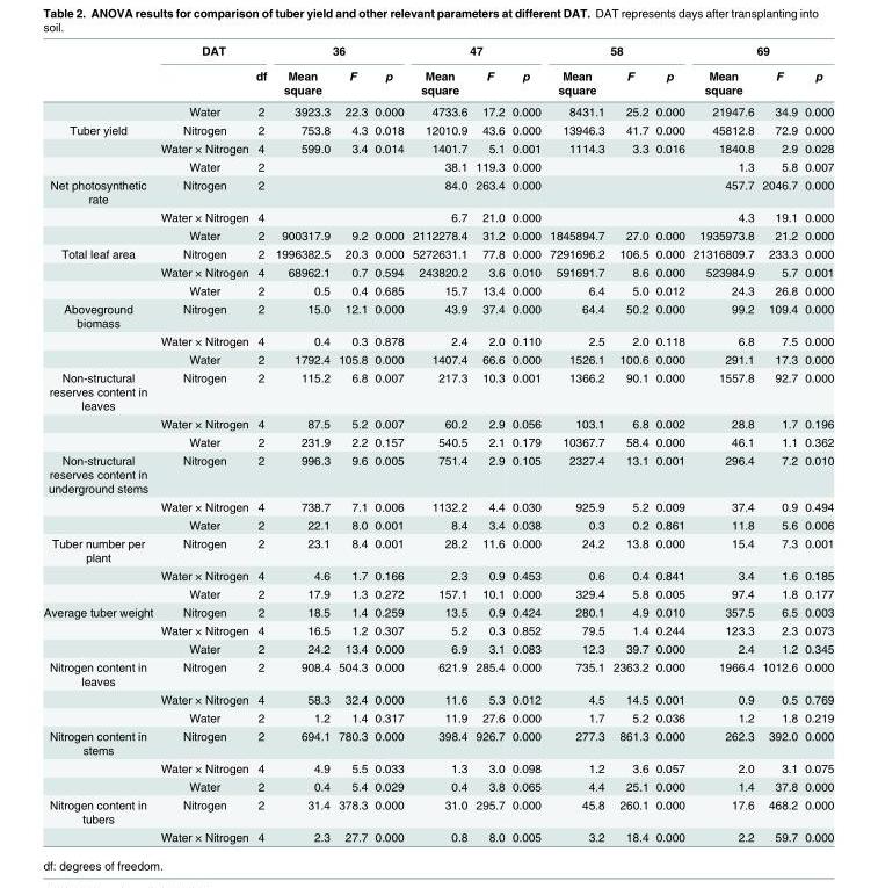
<table><thead><tr><td rowspan="2"></td><td colspan="2">DAT</td><td colspan="3">36</td><td colspan="3">47</td><td colspan="3">58</td><td colspan="3">69</td></tr><tr><td></td><td>df</td><td>Mean square</td><td>F</td><td>p</td><td>Mean square</td><td>F</td><td>p</td><td>Mean square</td><td>F</td><td>p</td><td>Mean square</td><td>F</td><td>p</td></tr></thead><tbody><tr><td></td><td>Water</td><td>2</td><td>3923.3</td><td>22.3</td><td>0.000</td><td>4733.6</td><td>17.2</td><td>0.000</td><td>8431.1</td><td>25.2</td><td>0.000</td><td>21947.6</td><td>34.9</td><td>0.000</td></tr><tr><td rowspan="3">Tuber yield</td><td>Nitrogen</td><td>2</td><td>753.8</td><td>4.3</td><td>0.018</td><td>12010.9</td><td>43.6</td><td>0.000</td><td>13946.3</td><td>41.7</td><td>0.000</td><td>45812.8</td><td>72.9</td><td>0.000</td></tr><tr><td>Water × Nitrogen</td><td>4</td><td>599.0</td><td>3.4</td><td>0.014</td><td>1401.7</td><td>5.1</td><td>0.001</td><td>1114.3</td><td>3.3</td><td>0.016</td><td>1840.8</td><td>2.9</td><td>0.028</td></tr><tr><td>Water</td><td>2</td><td></td><td></td><td></td><td>38.1</td><td>119.3</td><td>0.000</td><td></td><td></td><td></td><td>1.3</td><td>5.8</td><td>0.007</td></tr><tr><td rowspan="3">Net photosynthetic rate</td><td>Nitrogen</td><td>2</td><td></td><td></td><td></td><td>84.0</td><td>263.4</td><td>0.000</td><td></td><td></td><td></td><td>457.7</td><td>2046.7</td><td>0.000</td></tr><tr><td>Water × Nitrogen</td><td>4</td><td></td><td></td><td></td><td>6.7</td><td>21.0</td><td>0.000</td><td></td><td></td><td></td><td>4.3</td><td>19.1</td><td>0.000</td></tr><tr><td>Water</td><td>2</td><td>900317.9</td><td>9.2</td><td>0.000</td><td>2112278.4</td><td>31.2</td><td>0.000</td><td>1845894.7</td><td>27.0</td><td>0.000</td><td>1935973.8</td><td>21.2</td><td>0.000</td></tr><tr><td rowspan="3">Total leaf area</td><td>Nitrogen</td><td>2</td><td>1996382.5</td><td>20.3</td><td>0.000</td><td>5272631.1</td><td>77.8</td><td>0.000</td><td>7291696.2</td><td>106.5</td><td>0.000</td><td>21316809.7</td><td>233.3</td><td>0.000</td></tr><tr><td>Water × Nitrogen</td><td>4</td><td>68962.1</td><td>0.7</td><td>0.594</td><td>243820.2</td><td>3.6</td><td>0.010</td><td>591691.7</td><td>8.6</td><td>0.000</td><td>523984.9</td><td>5.7</td><td>0.001</td></tr><tr><td>Water</td><td>2</td><td>0.5</td><td>0.4</td><td>0.685</td><td>15.7</td><td>13.4</td><td>0.000</td><td>6.4</td><td>5.0</td><td>0.012</td><td>24.3</td><td>26.8</td><td>0.000</td></tr><tr><td rowspan="3">Aboveground biomass</td><td>Nitrogen</td><td>2</td><td>15.0</td><td>12.1</td><td>0.000</td><td>43.9</td><td>37.4</td><td>0.000</td><td>64.4</td><td>50.2</td><td>0.000</td><td>99.2</td><td>109.4</td><td>0.000</td></tr><tr><td>Water × Nitrogen</td><td>4</td><td>0.4</td><td>0.3</td><td>0.878</td><td>2.4</td><td>2.0</td><td>0.110</td><td>2.5</td><td>2.0</td><td>0.118</td><td>6.8</td><td>7.5</td><td>0.000</td></tr><tr><td>Water</td><td>2</td><td>1792.4</td><td>105.8</td><td>0.000</td><td>1407.4</td><td>66.6</td><td>0.000</td><td>1526.1</td><td>100.6</td><td>0.000</td><td>291.1</td><td>17.3</td><td>0.000</td></tr><tr><td rowspan="3">Non-structural reserves content in leaves</td><td>Nitrogen</td><td>2</td><td>115.2</td><td>6.8</td><td>0.007</td><td>217.3</td><td>10.3</td><td>0.001</td><td>1366.2</td><td>90.1</td><td>0.000</td><td>1557.8</td><td>92.7</td><td>0.000</td></tr><tr><td>Water × Nitrogen</td><td>4</td><td>87.5</td><td>5.2</td><td>0.007</td><td>60.2</td><td>2.9</td><td>0.056</td><td>103.1</td><td>6.8</td><td>0.002</td><td>28.8</td><td>1.7</td><td>0.196</td></tr><tr><td>Water</td><td>2</td><td>231.9</td><td>2.2</td><td>0.157</td><td>540.5</td><td>2.1</td><td>0.179</td><td>10367.7</td><td>58.4</td><td>0.000</td><td>46.1</td><td>1.1</td><td>0.362</td></tr><tr><td rowspan="3">Non-structural reserves content in underground stems</td><td>Nitrogen</td><td>2</td><td>996.3</td><td>9.6</td><td>0.005</td><td>751.4</td><td>2.9</td><td>0.105</td><td>2327.4</td><td>13.1</td><td>0.001</td><td>296.4</td><td>7.2</td><td>0.010</td></tr><tr><td>Water × Nitrogen</td><td>4</td><td>738.7</td><td>7.1</td><td>0.006</td><td>1132.2</td><td>4.4</td><td>0.030</td><td>925.9</td><td>5.2</td><td>0.009</td><td>37.4</td><td>0.9</td><td>0.494</td></tr><tr><td>Water</td><td>2</td><td>22.1</td><td>8.0</td><td>0.001</td><td>8.4</td><td>3.4</td><td>0.038</td><td>0.3</td><td>0.2</td><td>0.861</td><td>11.8</td><td>5.6</td><td>0.006</td></tr><tr><td rowspan="3">Tuber number per plant</td><td>Nitrogen</td><td>2</td><td>23.1</td><td>8.4</td><td>0.001</td><td>28.2</td><td>11.6</td><td>0.000</td><td>24.2</td><td>13.8</td><td>0.000</td><td>15.4</td><td>7.3</td><td>0.001</td></tr><tr><td>Water × Nitrogen</td><td>4</td><td>4.6</td><td>1.7</td><td>0.166</td><td>2.3</td><td>0.9</td><td>0.453</td><td>0.6</td><td>0.4</td><td>0.841</td><td>3.4</td><td>1.6</td><td>0.185</td></tr><tr><td>Water</td><td>2</td><td>17.9</td><td>1.3</td><td>0.272</td><td>157.1</td><td>10.1</td><td>0.000</td><td>329.4</td><td>5.8</td><td>0.005</td><td>97.4</td><td>1.8</td><td>0.177</td></tr><tr><td rowspan="3">Average tuber weight</td><td>Nitrogen</td><td>2</td><td>18.5</td><td>1.4</td><td>0.259</td><td>13.5</td><td>0.9</td><td>0.424</td><td>280.1</td><td>4.9</td><td>0.010</td><td>357.5</td><td>6.5</td><td>0.003</td></tr><tr><td>Water × Nitrogen</td><td>4</td><td>16.5</td><td>1.2</td><td>0.307</td><td>5.2</td><td>0.3</td><td>0.852</td><td>79.5</td><td>1.4</td><td>0.244</td><td>123.3</td><td>2.3</td><td>0.073</td></tr><tr><td>Water</td><td>2</td><td>24.2</td><td>13.4</td><td>0.000</td><td>6.9</td><td>3.1</td><td>0.083</td><td>12.3</td><td>39.7</td><td>0.000</td><td>2.4</td><td>1.2</td><td>0.345</td></tr><tr><td rowspan="3">Nitrogen content in leaves</td><td>Nitrogen</td><td>2</td><td>908.4</td><td>504.3</td><td>0.000</td><td>621.9</td><td>285.4</td><td>0.000</td><td>735.1</td><td>2363.2</td><td>0.000</td><td>1966.4</td><td>1012.6</td><td>0.000</td></tr><tr><td>Water × Nitrogen</td><td>4</td><td>58.3</td><td>32.4</td><td>0.000</td><td>11.6</td><td>5.3</td><td>0.012</td><td>4.5</td><td>14.5</td><td>0.001</td><td>0.9</td><td>0.5</td><td>0.769</td></tr><tr><td>Water</td><td>2</td><td>1.2</td><td>1.4</td><td>0.317</td><td>11.9</td><td>27.6</td><td>0.000</td><td>1.7</td><td>5.2</td><td>0.036</td><td>1.2</td><td>1.8</td><td>0.219</td></tr><tr><td rowspan="3">Nitrogen content in stems</td><td>Nitrogen</td><td>2</td><td>694.1</td><td>780.3</td><td>0.000</td><td>398.4</td><td>926.7</td><td>0.000</td><td>277.3</td><td>861.3</td><td>0.000</td><td>262.3</td><td>392.0</td><td>0.000</td></tr><tr><td>Water × Nitrogen</td><td>4</td><td>4.9</td><td>5.5</td><td>0.033</td><td>1.3</td><td>3.0</td><td>0.098</td><td>1.2</td><td>3.6</td><td>0.057</td><td>2.0</td><td>3.1</td><td>0.075</td></tr><tr><td>Water</td><td>2</td><td>0.4</td><td>5.4</td><td>0.029</td><td>0.4</td><td>3.8</td><td>0.065</td><td>4.4</td><td>25.1</td><td>0.000</td><td>1.4</td><td>37.8</td><td>0.000</td></tr><tr><td rowspan="2">Nitrogen content in tubers</td><td>Nitrogen</td><td>2</td><td>31.4</td><td>378.3</td><td>0.000</td><td>31.0</td><td>295.7</td><td>0.000</td><td>45.8</td><td>260.1</td><td>0.000</td><td>17.6</td><td>468.2</td><td>0.000</td></tr><tr><td>Water × Nitrogen</td><td>4</td><td>2.3</td><td>27.7</td><td>0.000</td><td>0.8</td><td>8.0</td><td>0.005</td><td>3.2</td><td>18.4</td><td>0.000</td><td>2.2</td><td>59.7</td><td>0.000</td></tr></tbody></table>